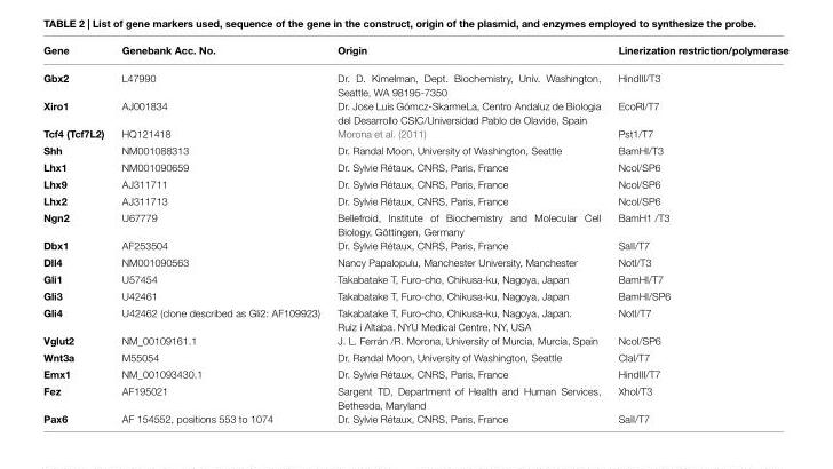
<table><thead><tr><td>Gene</td><td>Genebank Acc. No.</td><td>Origin</td><td>Linerization restriction/polymerase</td></tr></thead><tbody><tr><td>Gbx2</td><td>L47990</td><td>Dr. D. Kimelman, Dept. Biochemistry, Univ. Washington, Seattle, WA 98195-7350</td><td>HindIII/T3</td></tr><tr><td>Xiro1</td><td>AJ001834</td><td>Dr. Jose Luis Gómcz-SkarmeLa, Centro Andaluz de Biologia del Desarrollo CSIC/Universidad Pablo de Olavide, Spain</td><td>EcoRI/T7</td></tr><tr><td>Tcf4 (Tcf7L2)</td><td>HQ121418</td><td>Morona et al. (2011)</td><td>Pst1/T7</td></tr><tr><td>Shh</td><td>NM001088313</td><td>Dr. Randal Moon, University of Washington, Seattle</td><td>BamHI/T3</td></tr><tr><td>Lhx1</td><td>NM001090659</td><td>Dr. Sylvie Rétaux, CNRS, Paris, France</td><td>Ncol/SP6</td></tr><tr><td>Lhx9</td><td>AJ311711</td><td>Dr. Sylvie Rétaux, CNRS, Paris, France</td><td>Ncol/SP6</td></tr><tr><td>Lhx2</td><td>AJ311713</td><td>Dr. Sylvie Rétaux, CNRS, Paris, France</td><td>Ncol/SP6</td></tr><tr><td>Ngn2</td><td>U67779</td><td>Bellefroid, Institute of Biochemistry and Molecular Cell Biology, Göttingen, Germany</td><td>BamH1 /T3</td></tr><tr><td>Dbx1</td><td>AF253504</td><td>Dr. Sylvie Rétaux, CNRS, Paris, France</td><td>SaII/T7</td></tr><tr><td>Dll4</td><td>NM001090563</td><td>Nancy Papalopulu, Manchester University, Manchester</td><td>NotI/T3</td></tr><tr><td>Gli1</td><td>U57454</td><td>Takabatake T, Furo-cho, Chikusa-ku, Nagoya, Japan</td><td>BamHI/T7</td></tr><tr><td>Gli3</td><td>U42461</td><td>Takabatake T, Furo-cho, Chikusa-ku, Nagoya, Japan</td><td>BamHI/SP6</td></tr><tr><td>Gli4</td><td>U42462 (clone described as Gli2: AF109923)</td><td>Takabatake T, Furo-cho, Chikusa-ku, Nagoya, Japan. Ruiz i Altaba. NYU Medical Centre, NY, USA</td><td>NotI/T7</td></tr><tr><td>Vglut2</td><td>NM_00109161.1</td><td>J. L. Ferrán /R. Morona, University of Murcia, Murcia, Spain</td><td>NcoI/SP6</td></tr><tr><td>Wnt3a</td><td>M55054</td><td>Dr. Randal Moon, University of Washington, Seattle</td><td>ClaI/T7</td></tr><tr><td>Emx1</td><td>NM_001093430.1</td><td>Dr. Sylvie Rétaux, CNRS, Paris, France</td><td>HindIII/T7</td></tr><tr><td>Fez</td><td>AF195021</td><td>Sargent TD, Department of Health and Human Services, Bethesda, Maryland</td><td>Xhol/T3</td></tr><tr><td>Pax6</td><td>AF 154552, positions 553 to 1074</td><td>Dr. Sylvie Rétaux, CNRS, Paris, France</td><td>SaII/T7</td></tr></tbody></table>